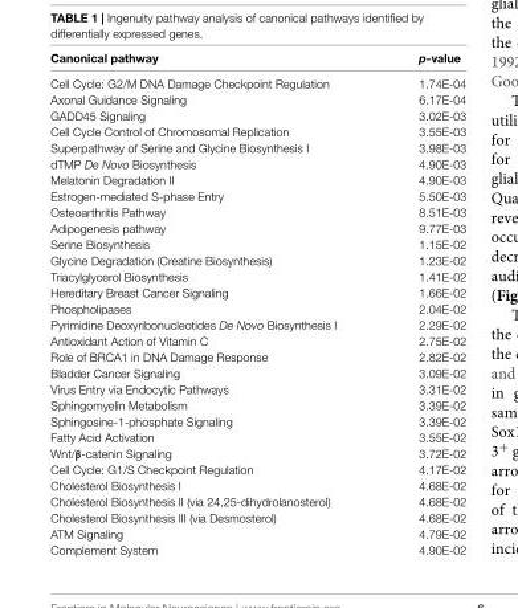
<table><thead><tr><td>Canonical pathway</td><td>p-value</td></tr></thead><tbody><tr><td>Cell Cycle: G2/M DNA Damage Checkpoint Regulation</td><td>1.74E-04</td></tr><tr><td>Axonal Guidance Signaling</td><td>6.17E-04</td></tr><tr><td>GADD45 Signaling</td><td>3.02E-03</td></tr><tr><td>Cell Cycle Control of Chromosomal Replication</td><td>3.55E-03</td></tr><tr><td>Superpathway of Serine and Glycine Biosynthesis I</td><td>3.98E-03</td></tr><tr><td>dTMP De Novo Biosynthesis</td><td>4.90E-03</td></tr><tr><td>Melatonin Degradation II</td><td>4.90E-03</td></tr><tr><td>Estrogen-mediated S-phase Entry</td><td>5.50E-03</td></tr><tr><td>Osteoarthritis Pathway</td><td>8.51E-03</td></tr><tr><td>Adipogenesis pathway</td><td>9.77E-03</td></tr><tr><td>Serine Biosynthesis</td><td>1.15E-02</td></tr><tr><td>Glycine Degradation (Creatine Biosynthesis)</td><td>1.23E-02</td></tr><tr><td>Triacylglycerol Biosynthesis</td><td>1.41E-02</td></tr><tr><td>Hereditary Breast Cancer Signaling</td><td>1.66E-02</td></tr><tr><td>Phospholipases</td><td>2.04E-02</td></tr><tr><td>Pyrimidine Deoxyribonucleotides De Novo Biosynthesis I</td><td>2.29E-02</td></tr><tr><td>Antioxidant Action of Vitamin C</td><td>2.75E-02</td></tr><tr><td>Role of BRCA1 in DNA Damage Response</td><td>2.82E-02</td></tr><tr><td>Bladder Cancer Signaling</td><td>3.09E-02</td></tr><tr><td>Virus Entry via Endocytic Pathways</td><td>3.31E-02</td></tr><tr><td>Sphingomyelin Metabolism</td><td>3.39E-02</td></tr><tr><td>Sphingosine-1-phosphate Signaling</td><td>3.39E-02</td></tr><tr><td>Fatty Acid Activation</td><td>3.55E-02</td></tr><tr><td>Wnt/β-catenin Signaling</td><td>3.72E-02</td></tr><tr><td>Cell Cycle: G1/S Checkpoint Regulation</td><td>4.17E-02</td></tr><tr><td>Cholesterol Biosynthesis I</td><td>4.68E-02</td></tr><tr><td>Cholesterol Biosynthesis II (via 24,25-dihydrolanosterol)</td><td>4.68E-02</td></tr><tr><td>Cholesterol Biosynthesis III (via Desmosterol)</td><td>4.68E-02</td></tr><tr><td>ATM Signaling</td><td>4.79E-02</td></tr><tr><td>Complement System</td><td>4.90E-02</td></tr></tbody></table>